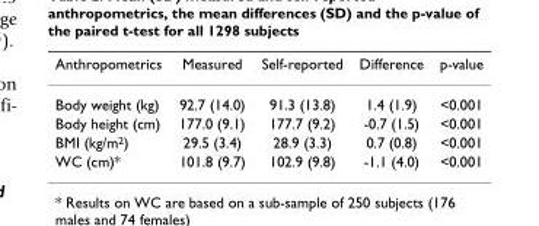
<table><thead><tr><td>Anthropometrics</td><td>Measured</td><td>Self-reported</td><td>Difference</td><td>p-value</td></tr></thead><tbody><tr><td>Body weight (kg)</td><td>92.7 (14.0)</td><td>91.3 (13.8)</td><td>1.4 (1.9)</td><td>&lt;0.001</td></tr><tr><td>Body height (cm)</td><td>177.0 (9.1)</td><td>177.7 (9.2)</td><td>-0.7 (1.5)</td><td>&lt;0.001</td></tr><tr><td>BMI (kg/m<sup>2</sup>)</td><td>29.5 (3.4)</td><td>28.9 (3.3)</td><td>0.7 (0.8)</td><td>&lt;0.001</td></tr><tr><td>WC (cm)*</td><td>101.8 (9.7)</td><td>102.9 (9.8)</td><td>-1.1 (4.0)</td><td>&lt;0.001</td></tr></tbody></table>